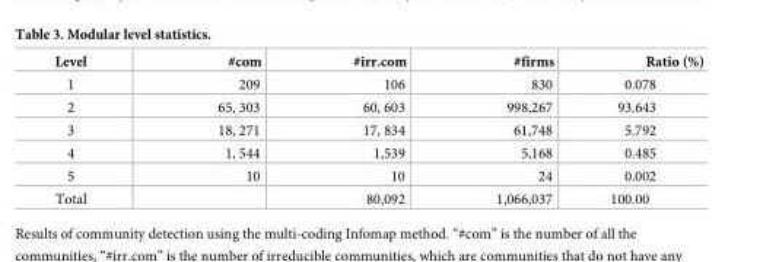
<table><thead><tr><td>Level</td><td>#com</td><td>#irr.com</td><td>#firms</td><td>Ratio (%)</td></tr></thead><tbody><tr><td>1</td><td>209</td><td>106</td><td>830</td><td>0.078</td></tr><tr><td>2</td><td>65, 303</td><td>60, 603</td><td>998,267</td><td>93.643</td></tr><tr><td>3</td><td>18, 271</td><td>17, 834</td><td>61,748</td><td>5.792</td></tr><tr><td>4</td><td>1, 544</td><td>1,539</td><td>5,168</td><td>0.485</td></tr><tr><td>5</td><td>10</td><td>10</td><td>24</td><td>0.002</td></tr><tr><td>Total</td><td></td><td>80,092</td><td>1,066,037</td><td>100.00</td></tr></tbody></table>